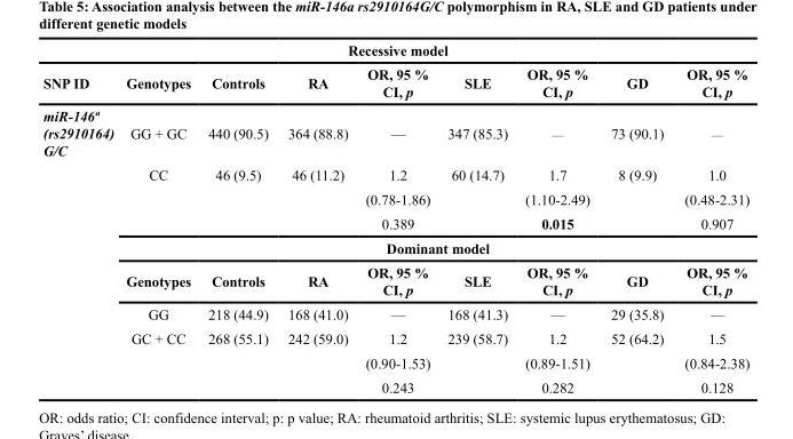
<table><thead><tr><td colspan="9">Recessive model</td></tr><tr><td>SNP ID</td><td>Genotypes</td><td>Controls</td><td>RA</td><td>OR, 95 % CI, p</td><td>SLE</td><td>OR, 95 % CI, p</td><td>GD</td><td>OR, 95 % CI, p</td></tr></thead><tbody><tr><td rowspan="10">miR-146ª (rs2910164) G/C</td><td>GG + GC</td><td>440 (90.5)</td><td>364 (88.8)</td><td>—</td><td>347 (85.3)</td><td>—</td><td>73 (90.1)</td><td>—</td></tr><tr><td>CC</td><td>46 (9.5)</td><td>46 (11.2)</td><td>1.2</td><td>60 (14.7)</td><td>1.7</td><td>8 (9.9)</td><td>1.0</td></tr><tr><td></td><td></td><td></td><td>(0.78-1.86)</td><td></td><td>(1.10-2.49)</td><td></td><td>(0.48-2.31)</td></tr><tr><td></td><td></td><td></td><td>0.389</td><td></td><td>0.015</td><td></td><td>0.907</td></tr><tr><td colspan="8">Dominant model</td></tr><tr><td>Genotypes</td><td>Controls</td><td>RA</td><td>OR, 95 % CI, p</td><td>SLE</td><td>OR, 95 % CI, p</td><td>GD</td><td>OR, 95 % CI, p</td></tr><tr><td>GG</td><td>218 (44.9)</td><td>168 (41.0)</td><td>—</td><td>168 (41.3)</td><td>—</td><td>29 (35.8)</td><td>—</td></tr><tr><td>GC + CC</td><td>268 (55.1)</td><td>242 (59.0)</td><td>1.2</td><td>239 (58.7)</td><td>1.2</td><td>52 (64.2)</td><td>1.5</td></tr><tr><td></td><td></td><td></td><td>(0.90-1.53)</td><td></td><td>(0.89-1.51)</td><td></td><td>(0.84-2.38)</td></tr><tr><td></td><td></td><td></td><td>0.243</td><td></td><td>0.282</td><td></td><td>0.128</td></tr></tbody></table>